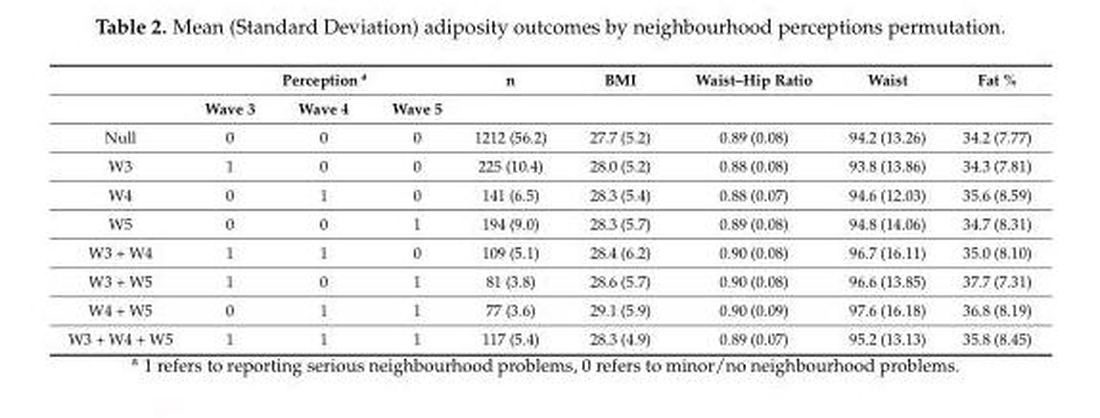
<table><thead><tr><td rowspan="2"></td><td rowspan="2">Wave 3</td><td rowspan="2">Perception <sup>a</sup> Wave 4</td><td rowspan="2">Wave 5</td><td rowspan="2">n</td><td rowspan="2">BMI</td><td rowspan="2">Waist–Hip Ratio</td><td rowspan="2">Waist</td><td rowspan="2">Fat %</td></tr><tr></tr></thead><tbody><tr><td>Null</td><td>0</td><td>0</td><td>0</td><td>1212 (56.2)</td><td>27.7 (5.2)</td><td>0.89 (0.08)</td><td>94.2 (13.26)</td><td>34.2 (7.77)</td></tr><tr><td>W3</td><td>1</td><td>0</td><td>0</td><td>225 (10.4)</td><td>28.0 (5.2)</td><td>0.88 (0.08)</td><td>93.8 (13.86)</td><td>34.3 (7.81)</td></tr><tr><td>W4</td><td>0</td><td>1</td><td>0</td><td>141 (6.5)</td><td>28.3 (5.4)</td><td>0.88 (0.07)</td><td>94.6 (12.03)</td><td>35.6 (8.59)</td></tr><tr><td>W5</td><td>0</td><td>0</td><td>1</td><td>194 (9.0)</td><td>28.3 (5.7)</td><td>0.89 (0.08)</td><td>94.8 (14.06)</td><td>34.7 (8.31)</td></tr><tr><td>W3 + W4</td><td>1</td><td>1</td><td>0</td><td>109 (5.1)</td><td>28.4 (6.2)</td><td>0.90 (0.08)</td><td>96.7 (16.11)</td><td>35.0 (8.10)</td></tr><tr><td>W3 + W5</td><td>1</td><td>0</td><td>1</td><td>81 (3.8)</td><td>28.6 (5.7)</td><td>0.90 (0.08)</td><td>96.6 (13.85)</td><td>37.7 (7.31)</td></tr><tr><td>W4 + W5</td><td>0</td><td>1</td><td>1</td><td>77 (3.6)</td><td>29.1 (5.9)</td><td>0.90 (0.09)</td><td>97.6 (16.18)</td><td>36.8 (8.19)</td></tr><tr><td>W3 + W4 + W5</td><td>1</td><td>1</td><td>1</td><td>117 (5.4)</td><td>28.3 (4.9)</td><td>0.89 (0.07)</td><td>95.2 (13.13)</td><td>35.8 (8.45)</td></tr></tbody></table>